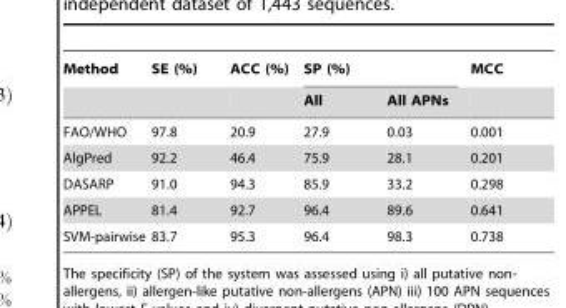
<table><thead><tr><td rowspan="2">Method</td><td rowspan="2">SE (%)</td><td rowspan="2">ACC (%)</td><td colspan="2">SP (%)</td><td rowspan="2">MCC</td></tr><tr><td>All</td><td>All APNs</td></tr></thead><tbody><tr><td>FAO/WHO</td><td>97.8</td><td>20.9</td><td>27.9</td><td>0.03</td><td>0.001</td></tr><tr><td>AlgPred</td><td>92.2</td><td>46.4</td><td>75.9</td><td>28.1</td><td>0.201</td></tr><tr><td>DASARP</td><td>91.0</td><td>94.3</td><td>85.9</td><td>33.2</td><td>0.298</td></tr><tr><td>APPEL</td><td>81.4</td><td>92.7</td><td>96.4</td><td>89.6</td><td>0.641</td></tr><tr><td>SVM-pairwise</td><td>83.7</td><td>95.3</td><td>96.4</td><td>98.3</td><td>0.738</td></tr></tbody></table>